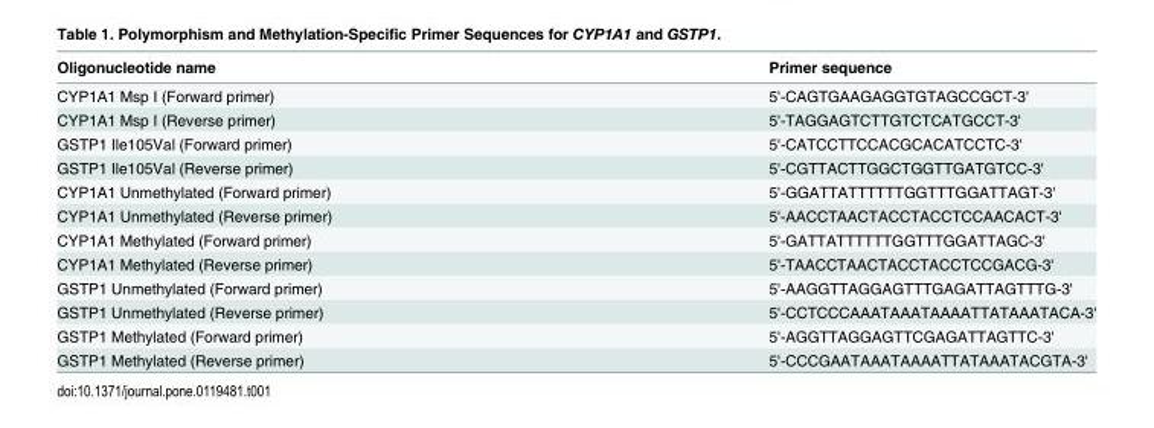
<table><thead><tr><td>Oligonucleotide name</td><td>Primer sequence</td></tr></thead><tbody><tr><td>CYP1A1 Msp I (Forward primer)</td><td>5&#x27;-CAGTGAAGAGGTGTAGCCGCT-3&#x27;</td></tr><tr><td>CYP1A1 Msp I (Reverse primer)</td><td>5&#x27;-TAGGAGTCTTGTCTCATGCCT-3&#x27;</td></tr><tr><td>GSTP1 Ile105Val (Forward primer)</td><td>5&#x27;-CATCCTTCCACGCACATCCTC-3&#x27;</td></tr><tr><td>GSTP1 Ile105Val (Reverse primer)</td><td>5&#x27;-CGTTACTTGGCTGGTTGATGTCC-3&#x27;</td></tr><tr><td>CYP1A1 Unmethylated (Forward primer)</td><td>5&#x27;-GGATTATTTTTTGGTTTGGATTAGT-3&#x27;</td></tr><tr><td>CYP1A1 Unmethylated (Reverse primer)</td><td>5&#x27;-AACCTAACTACCTACCTCCAACACT-3&#x27;</td></tr><tr><td>CYP1A1 Methylated (Forward primer)</td><td>5&#x27;-GATTATTTTTTGGTTTGGATTAGC-3&#x27;</td></tr><tr><td>CYP1A1 Methylated (Reverse primer)</td><td>5&#x27;-TAACCTAACTACCTACCTCCGACG-3&#x27;</td></tr><tr><td>GSTP1 Unmethylated (Forward primer)</td><td>5&#x27;-AAGGTTAGGAGTTTGAGATTAGTTTG-3&#x27;</td></tr><tr><td>GSTP1 Unmethylated (Reverse primer)</td><td>5&#x27;-CCTCCCAAATAAATAAAATTATAAATACA-3&#x27;</td></tr><tr><td>GSTP1 Methylated (Forward primer)</td><td>5&#x27;-AGGTTAGGAGTTCGAGATTAGTTC-3&#x27;</td></tr><tr><td>GSTP1 Methylated (Reverse primer)</td><td>5&#x27;-CCCGAATAAATAAAATTATAAATACGTA-3&#x27;</td></tr></tbody></table>